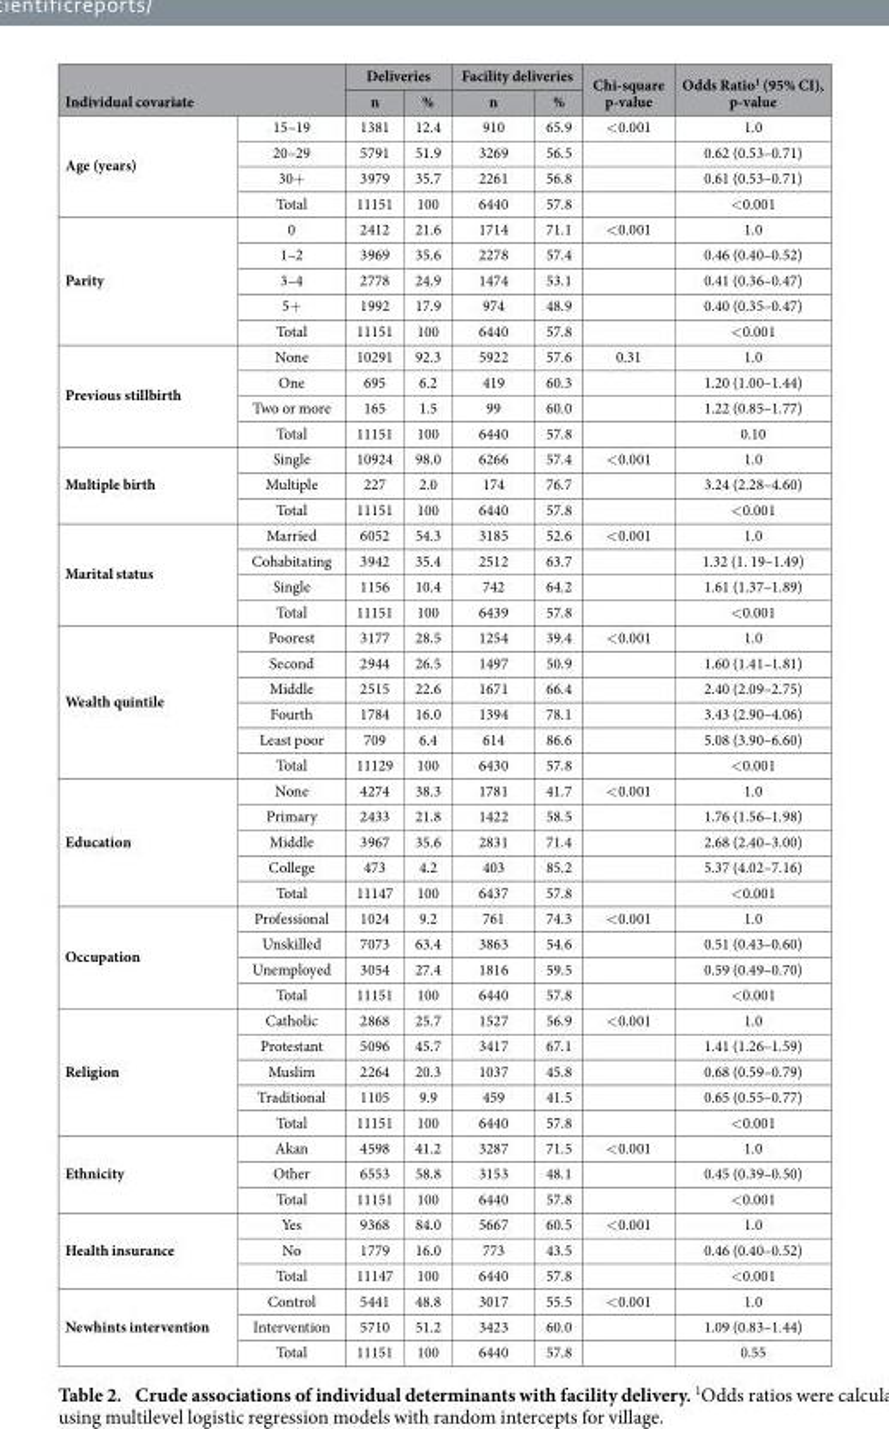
<table><thead><tr><td></td><td></td><td colspan="2">Deliveries</td><td colspan="2">Facility deliveries</td><td rowspan="2">Chi-square p-value</td><td rowspan="2">Odds Ratio<sup>1</sup> (95% CI), p-value</td></tr><tr><td colspan="2">Individual covariate</td><td>n</td><td>%</td><td>n</td><td>%</td></tr></thead><tbody><tr><td rowspan="4">Age (years)</td><td>15–19</td><td>1381</td><td>12.4</td><td>910</td><td>65.9</td><td>&lt; 0.001</td><td>1.0</td></tr><tr><td>20–29</td><td>5791</td><td>51.9</td><td>3269</td><td>56.5</td><td></td><td>0.62 (0.53–0.71)</td></tr><tr><td>30+</td><td>3979</td><td>35.7</td><td>2261</td><td>56.8</td><td></td><td>0.61 (0.53–0.71)</td></tr><tr><td>Total</td><td>11151</td><td>100</td><td>6440</td><td>57.8</td><td></td><td>&lt; 0.001</td></tr><tr><td rowspan="5">Parity</td><td>0</td><td>2412</td><td>21.6</td><td>1714</td><td>71.1</td><td>&lt; 0.001</td><td>1.0</td></tr><tr><td>1–2</td><td>3969</td><td>35.6</td><td>2278</td><td>57.4</td><td></td><td>0.46 (0.40–0.52)</td></tr><tr><td>3–4</td><td>2778</td><td>24.9</td><td>1474</td><td>53.1</td><td></td><td>0.41 (0.36–0.47)</td></tr><tr><td>5+</td><td>1992</td><td>17.9</td><td>974</td><td>48.9</td><td></td><td>0.40 (0.35–0.47)</td></tr><tr><td>Total</td><td>11151</td><td>100</td><td>6440</td><td>57.8</td><td></td><td>&lt; 0.001</td></tr><tr><td rowspan="4">Previous stillbirth</td><td>None</td><td>10291</td><td>92.3</td><td>5922</td><td>57.6</td><td>0.31</td><td>1.0</td></tr><tr><td>One</td><td>695</td><td>6.2</td><td>419</td><td>60.3</td><td></td><td>1.20 (1.00–1.44)</td></tr><tr><td>Two or more</td><td>165</td><td>1.5</td><td>99</td><td>60.0</td><td></td><td>1.22 (0.85–1.77)</td></tr><tr><td>Total</td><td>11151</td><td>100</td><td>6440</td><td>57.8</td><td></td><td>0.10</td></tr><tr><td rowspan="3">Multiple birth</td><td>Single</td><td>10924</td><td>98.0</td><td>6266</td><td>57.4</td><td>&lt; 0.001</td><td>1.0</td></tr><tr><td>Multiple</td><td>227</td><td>2.0</td><td>174</td><td>76.7</td><td></td><td>3.24 (2.28–4.60)</td></tr><tr><td>Total</td><td>11151</td><td>100</td><td>6440</td><td>57.8</td><td></td><td>&lt; 0.001</td></tr><tr><td rowspan="4">Marital status</td><td>Married</td><td>6052</td><td>54.3</td><td>3185</td><td>52.6</td><td>&lt; 0.001</td><td>1.0</td></tr><tr><td>Cohabitating</td><td>3942</td><td>35.4</td><td>2512</td><td>63.7</td><td></td><td>1.32 (1. 19–1.49)</td></tr><tr><td>Single</td><td>1156</td><td>10.4</td><td>742</td><td>64.2</td><td></td><td>1.61 (1.37–1.89)</td></tr><tr><td>Total</td><td>11151</td><td>100</td><td>6439</td><td>57.8</td><td></td><td>&lt; 0.001</td></tr><tr><td rowspan="6">Wealth quintile</td><td>Poorest</td><td>3177</td><td>28.5</td><td>1254</td><td>39.4</td><td>&lt; 0.001</td><td>1.0</td></tr><tr><td>Second</td><td>2944</td><td>26.5</td><td>1497</td><td>50.9</td><td></td><td>1.60 (1.41–1.81)</td></tr><tr><td>Middle</td><td>2515</td><td>22.6</td><td>1671</td><td>66.4</td><td></td><td>2.40 (2.09–2.75)</td></tr><tr><td>Fourth</td><td>1784</td><td>16.0</td><td>1394</td><td>78.1</td><td></td><td>3.43 (2.90–4.06)</td></tr><tr><td>Least poor</td><td>709</td><td>6.4</td><td>614</td><td>86.6</td><td></td><td>5.08 (3.90–6.60)</td></tr><tr><td>Total</td><td>11129</td><td>100</td><td>6430</td><td>57.8</td><td></td><td>&lt; 0.001</td></tr><tr><td rowspan="5">Education</td><td>None</td><td>4274</td><td>38.3</td><td>1781</td><td>41.7</td><td>&lt; 0.001</td><td>1.0</td></tr><tr><td>Primary</td><td>2433</td><td>21.8</td><td>1422</td><td>58.5</td><td></td><td>1.76 (1.56–1.98)</td></tr><tr><td>Middle</td><td>3967</td><td>35.6</td><td>2831</td><td>71.4</td><td></td><td>2.68 (2.40–3.00)</td></tr><tr><td>College</td><td>473</td><td>4.2</td><td>403</td><td>85.2</td><td></td><td>5.37 (4.02–7.16)</td></tr><tr><td>Total</td><td>11147</td><td>100</td><td>6437</td><td>57.8</td><td></td><td>&lt; 0.001</td></tr><tr><td rowspan="4">Occupation</td><td>Professional</td><td>1024</td><td>9.2</td><td>761</td><td>74.3</td><td>&lt; 0.001</td><td>1.0</td></tr><tr><td>Unskilled</td><td>7073</td><td>63.4</td><td>3863</td><td>54.6</td><td></td><td>0.51 (0.43–0.60)</td></tr><tr><td>Unemployed</td><td>3054</td><td>27.4</td><td>1816</td><td>59.5</td><td></td><td>0.59 (0.49–0.70)</td></tr><tr><td>Total</td><td>11151</td><td>100</td><td>6440</td><td>57.8</td><td></td><td>&lt; 0.001</td></tr><tr><td rowspan="5">Religion</td><td>Catholic</td><td>2868</td><td>25.7</td><td>1527</td><td>56.9</td><td>&lt; 0.001</td><td>1.0</td></tr><tr><td>Protestant</td><td>5096</td><td>45.7</td><td>3417</td><td>67.1</td><td></td><td>1.41 (1.26–1.59)</td></tr><tr><td>Muslim</td><td>2264</td><td>20.3</td><td>1037</td><td>45.8</td><td></td><td>0.68 (0.59–0.79)</td></tr><tr><td>Traditional</td><td>1105</td><td>9.9</td><td>459</td><td>41.5</td><td></td><td>0.65 (0.55–0.77)</td></tr><tr><td>Total</td><td>11151</td><td>100</td><td>6440</td><td>57.8</td><td></td><td>&lt; 0.001</td></tr><tr><td rowspan="3">Ethnicity</td><td>Akan</td><td>4598</td><td>41.2</td><td>3287</td><td>71.5</td><td>&lt; 0.001</td><td>1.0</td></tr><tr><td>Other</td><td>6553</td><td>58.8</td><td>3153</td><td>48.1</td><td></td><td>0.45 (0.39–0.50)</td></tr><tr><td>Total</td><td>11151</td><td>100</td><td>6440</td><td>57.8</td><td></td><td>&lt; 0.001</td></tr><tr><td rowspan="3">Health insurance</td><td>Yes</td><td>9368</td><td>84.0</td><td>5667</td><td>60.5</td><td>&lt; 0.001</td><td>1.0</td></tr><tr><td>No</td><td>1779</td><td>16.0</td><td>773</td><td>43.5</td><td></td><td>0.46 (0.40–0.52)</td></tr><tr><td>Total</td><td>11147</td><td>100</td><td>6440</td><td>57.8</td><td></td><td>&lt; 0.001</td></tr><tr><td rowspan="3">Newhints intervention</td><td>Control</td><td>5441</td><td>48.8</td><td>3017</td><td>55.5</td><td>&lt; 0.001</td><td>1.0</td></tr><tr><td>Intervention</td><td>5710</td><td>51.2</td><td>3423</td><td>60.0</td><td></td><td>1.09 (0.83–1.44)</td></tr><tr><td>Total</td><td>11151</td><td>100</td><td>6440</td><td>57.8</td><td></td><td>0.55</td></tr></tbody></table>